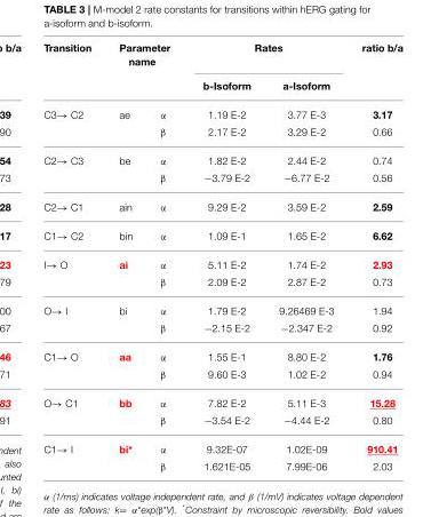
<table><thead><tr><td rowspan="2">Transition</td><td colspan="2">Parameter name</td><td colspan="2">Rates</td><td rowspan="2">ratio b/a</td></tr><tr><td></td><td></td><td>b-Isoform</td><td>a-Isoform</td></tr></thead><tbody><tr><td rowspan="2">C3→ C2</td><td>ae</td><td>α</td><td>1.19 E-2</td><td>3.77 E-3</td><td>3.17</td></tr><tr><td></td><td>β</td><td>2.17 E-2</td><td>3.29 E-2</td><td>0.66</td></tr><tr><td rowspan="2">C2→ C3</td><td>be</td><td>α</td><td>1.82 E-2</td><td>2.44 E-2</td><td>0.74</td></tr><tr><td></td><td>β</td><td>−3.79 E-2</td><td>−6.77 E-2</td><td>0.56</td></tr><tr><td>C2→ C1</td><td>ain</td><td>α</td><td>9.29 E-2</td><td>3.59 E-2</td><td>2.59</td></tr><tr><td>C1→ C2</td><td>bin</td><td>α</td><td>1.09 E-1</td><td>1.65 E-2</td><td>6.62</td></tr><tr><td rowspan="2">I→ O</td><td>ai</td><td>α</td><td>5.11 E-2</td><td>1.74 E-2</td><td>2.93</td></tr><tr><td></td><td>β</td><td>2.09 E-2</td><td>2.87 E-2</td><td>0.73</td></tr><tr><td rowspan="2">O→ I</td><td>bi</td><td>α</td><td>1.79 E-2</td><td>9.26469 E-3</td><td>1.94</td></tr><tr><td></td><td>β</td><td>−2.15 E-2</td><td>−2.347 E-2</td><td>0.92</td></tr><tr><td rowspan="2">C1→ O</td><td>aa</td><td>α</td><td>1.55 E-1</td><td>8.80 E-2</td><td>1.76</td></tr><tr><td></td><td>β</td><td>9.60 E-3</td><td>1.02 E-2</td><td>0.94</td></tr><tr><td rowspan="2">O→ C1</td><td>bb</td><td>α</td><td>7.82 E-2</td><td>5.11 E-3</td><td>15.28</td></tr><tr><td></td><td>β</td><td>−3.54 E-2</td><td>−4.44 E-2</td><td>0.80</td></tr><tr><td rowspan="2">C1→ I</td><td>bi*</td><td>α</td><td>9.32E-07</td><td>1.02E-09</td><td>910.41</td></tr><tr><td></td><td>β</td><td>1.621E-05</td><td>7.99E-06</td><td>2.03</td></tr></tbody></table>